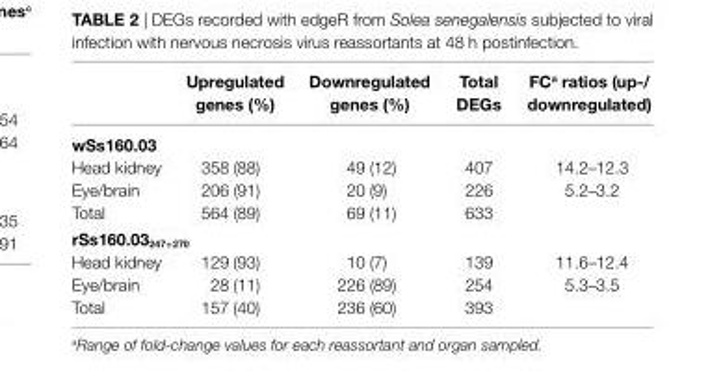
<table><thead><tr><td></td><td>Upregulated genes (%)</td><td>Downregulated genes (%)</td><td>Total Degs</td><td>Fc<sup>a</sup> ratios (up-/ downregulated)</td></tr></thead><tbody><tr><td colspan="5">wss160.03</td></tr><tr><td>Head kidney</td><td>358 (88)</td><td>49 (12)</td><td>407</td><td>14.2–12.3</td></tr><tr><td>Eye/brain</td><td>206 (91)</td><td>20 (9)</td><td>226</td><td>5.2–3.2</td></tr><tr><td>Total</td><td>564 (89)</td><td>69 (11)</td><td>633</td><td></td></tr><tr><td colspan="5">rss160.03<sub>247+270</sub></td></tr><tr><td>Head kidney</td><td>129 (93)</td><td>10 (7)</td><td>139</td><td>11.6–12.4</td></tr><tr><td>Eye/brain</td><td>28 (11)</td><td>226 (89)</td><td>254</td><td>5.3–3.5</td></tr><tr><td>Total</td><td>157 (40)</td><td>236 (60)</td><td>393</td><td></td></tr></tbody></table>